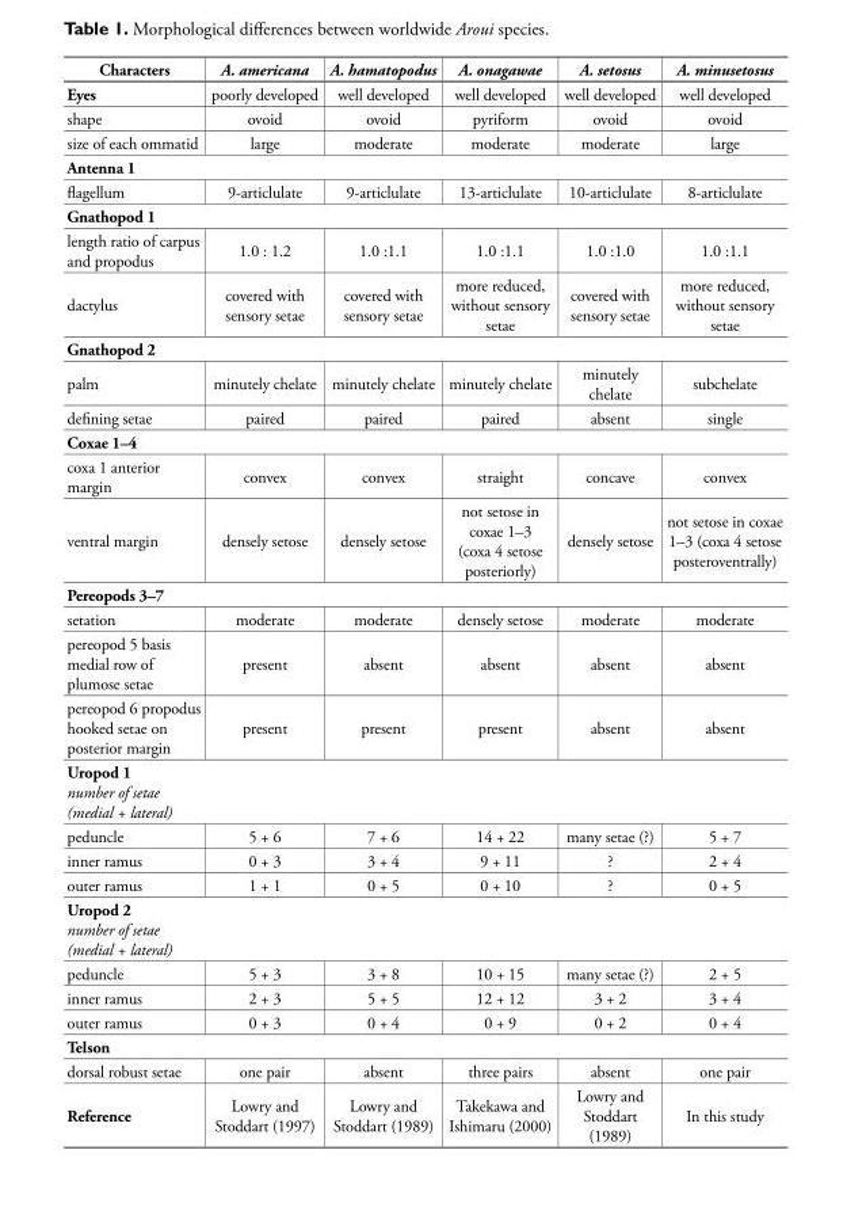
<table><thead><tr><td>Characters</td><td>A. americana</td><td>A. hamatopodus</td><td>A. onagawae</td><td>A. setosus</td><td>A. minusetosus</td></tr></thead><tbody><tr><td>Eyes</td><td>poorly developed</td><td>well developed</td><td>well developed</td><td>well developed</td><td>well developed</td></tr><tr><td>shape</td><td>ovoid</td><td>ovoid</td><td>pyriform</td><td>ovoid</td><td>ovoid</td></tr><tr><td>size of each ommatid</td><td>large</td><td>moderate</td><td>moderate</td><td>moderate</td><td>large</td></tr><tr><td colspan="6">Antenna 1</td></tr><tr><td>flagellum</td><td>9-articlulate</td><td>9-articlulate</td><td>13-articlulate</td><td>10-articlulate</td><td>8-articlulate</td></tr><tr><td colspan="6">Gnathopod 1</td></tr><tr><td>length ratio of carpus and propodus</td><td>1.0 : 1.2</td><td>1.0 :1.1</td><td>1.0 :1.1</td><td>1.0 :1.0</td><td>1.0 :1.1</td></tr><tr><td>dactylus</td><td>covered with sensory setae</td><td>covered with sensory setae</td><td>more reduced, without sensory setae</td><td>covered with sensory setae</td><td>more reduced, without sensory setae</td></tr><tr><td colspan="6">Gnathopod 2</td></tr><tr><td>palm</td><td>minutely chelate</td><td>minutely chelate</td><td>minutely chelate</td><td>minutely chelate</td><td>subchelate</td></tr><tr><td>defining setae</td><td>paired</td><td>paired</td><td>paired</td><td>absent</td><td>single</td></tr><tr><td colspan="6">Coxae 1–4</td></tr><tr><td>coxa 1 anterior margin</td><td>convex</td><td>convex</td><td>straight</td><td>concave</td><td>convex</td></tr><tr><td>ventral margin</td><td>densely setose</td><td>densely setose</td><td>not setose in coxae 1–3 (coxa 4 setose posteriorly)</td><td>densely setose</td><td>not setose in coxae 1–3 (coxa 4 setose posteroventrally)</td></tr><tr><td colspan="6">Pereopods 3–7</td></tr><tr><td>setation</td><td>moderate</td><td>moderate</td><td>densely setose</td><td>moderate</td><td>moderate</td></tr><tr><td>pereopod 5 basis medial row of plumose setae</td><td>present</td><td>absent</td><td>absent</td><td>absent</td><td>absent</td></tr><tr><td>pereopod 6 propodus hooked setae on posterior margin</td><td>present</td><td>present</td><td>present</td><td>absent</td><td>absent</td></tr><tr><td colspan="6">Uropod 1 number of setae (medial + lateral)</td></tr><tr><td>peduncle</td><td>5 + 6</td><td>7 + 6</td><td>14 + 22</td><td>many setae (?)</td><td>5 + 7</td></tr><tr><td>inner ramus</td><td>0 + 3</td><td>3 + 4</td><td>9 + 11</td><td>?</td><td>2 + 4</td></tr><tr><td>outer ramus</td><td>1 + 1</td><td>0 + 5</td><td>0 + 10</td><td>?</td><td>0 + 5</td></tr><tr><td colspan="6">Uropod 2 number of setae (medial + lateral)</td></tr><tr><td>peduncle</td><td>5 + 3</td><td>3 + 8</td><td>10 + 15</td><td>many setae (?)</td><td>2 + 5</td></tr><tr><td>inner ramus</td><td>2 + 3</td><td>5 + 5</td><td>12 + 12</td><td>3 + 2</td><td>3 + 4</td></tr><tr><td>outer ramus</td><td>0 + 3</td><td>0 + 4</td><td>0 + 9</td><td>0 + 2</td><td>0 + 4</td></tr><tr><td colspan="6">Telson</td></tr><tr><td>dorsal robust setae</td><td>one pair</td><td>absent</td><td>three pairs</td><td>absent</td><td>one pair</td></tr><tr><td>Reference</td><td>Lowry and Stoddart (1997)</td><td>Lowry and Stoddart (1989)</td><td>Takekawa and Ishimaru (2000)</td><td>Lowry and Stoddart (1989)</td><td>In this study</td></tr></tbody></table>